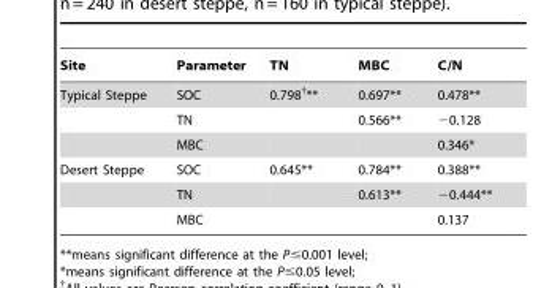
<table><thead><tr><td>Site</td><td>Parameter</td><td>TN</td><td>MBC</td><td>C/N</td></tr></thead><tbody><tr><td rowspan="3">Typical Steppe</td><td>SOC</td><td>0.798†**</td><td>0.697**</td><td>0.478**</td></tr><tr><td>TN</td><td></td><td>0.566**</td><td>−0.128</td></tr><tr><td>MBC</td><td></td><td></td><td>0.346*</td></tr><tr><td rowspan="3">Desert Steppe</td><td>SOC</td><td>0.645**</td><td>0.784**</td><td>0.388**</td></tr><tr><td>TN</td><td></td><td>0.613**</td><td>−0.444**</td></tr><tr><td>MBC</td><td></td><td></td><td>0.137</td></tr></tbody></table>